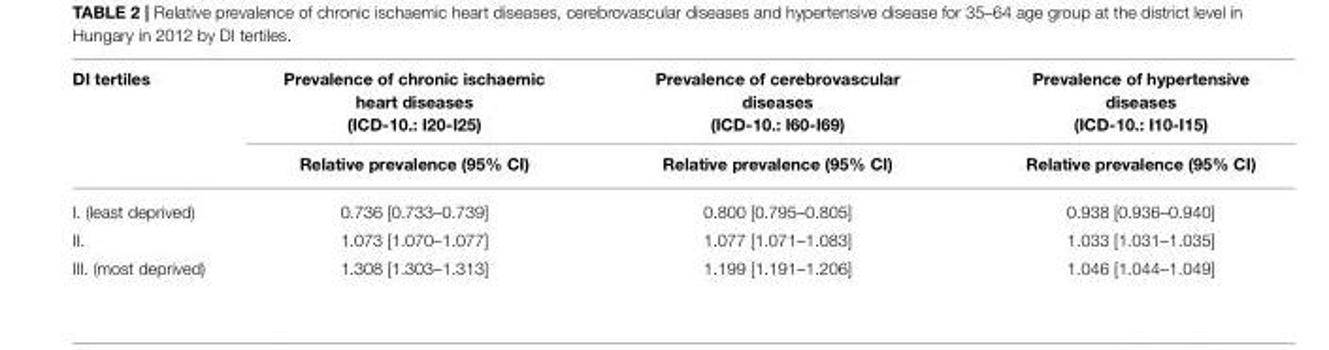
<table><thead><tr><td rowspan="2">DI tertiles</td><td rowspan="2">Prevalence of chronic ischaemic heart diseases (ICD-10.: I20-I25) Relative prevalence (95% CI)</td><td rowspan="2">Prevalence of cerebrovascular diseases (ICD-10.: I60-I69) Relative prevalence (95% CI)</td><td rowspan="2">Prevalence of hypertensive diseases (ICD-10.: I10-I15) Relative prevalence (95% CI)</td></tr><tr></tr></thead><tbody><tr><td>I. (least deprived)</td><td>0.736 [0.733–0.739]</td><td>0.800 [0.795–0.805]</td><td>0.938 [0.936–0.940]</td></tr><tr><td>II.</td><td>1.073 [1.070–1.077]</td><td>1.077 [1.071–1.083]</td><td>1.033 [1.031–1.035]</td></tr><tr><td>III. (most deprived)</td><td>1.308 [1.303–1.313]</td><td>1.199 [1.191–1.206]</td><td>1.046 [1.044–1.049]</td></tr></tbody></table>